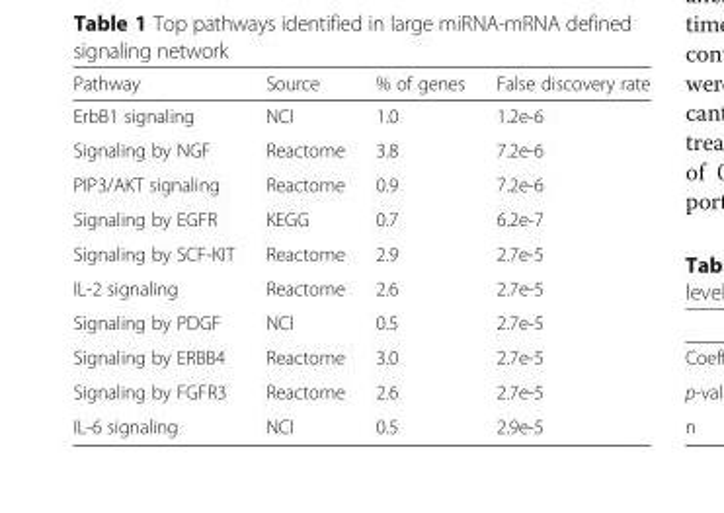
<table><thead><tr><td>Pathway</td><td>Source</td><td>% of genes</td><td>False discovery rate</td></tr></thead><tbody><tr><td>ErbB1 signaling</td><td>NCI</td><td>1.0</td><td>1.2e-6</td></tr><tr><td>Signaling by NGF</td><td>Reactome</td><td>3.8</td><td>7.2e-6</td></tr><tr><td>PIP3/AKT signaling</td><td>Reactome</td><td>0.9</td><td>7.2e-6</td></tr><tr><td>Signaling by EGFR</td><td>KEGG</td><td>0.7</td><td>6.2e-7</td></tr><tr><td>Signaling by SCF-KIT</td><td>Reactome</td><td>2.9</td><td>2.7e-5</td></tr><tr><td>IL-2 signaling</td><td>Reactome</td><td>2.6</td><td>2.7e-5</td></tr><tr><td>Signaling by PDGF</td><td>NCI</td><td>0.5</td><td>2.7e-5</td></tr><tr><td>Signaling by ERBB4</td><td>Reactome</td><td>3.0</td><td>2.7e-5</td></tr><tr><td>Signaling by FGFR3</td><td>Reactome</td><td>2.6</td><td>2.7e-5</td></tr><tr><td>IL-6 signaling</td><td>NCI</td><td>0.5</td><td>2.9e-5</td></tr></tbody></table>